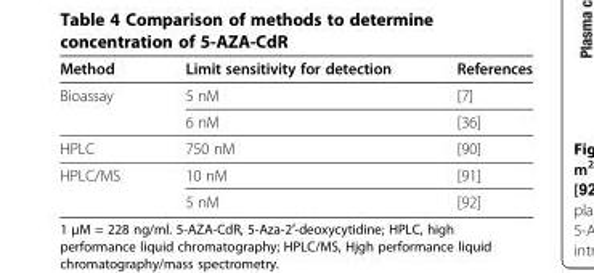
<table><thead><tr><td>Method</td><td>Limit sensitivity for detection</td><td>References</td></tr></thead><tbody><tr><td rowspan="2">Bioassay</td><td>5 nM</td><td>[7]</td></tr><tr><td>6 nM</td><td>[36]</td></tr><tr><td>HPLC</td><td>750 nM</td><td>[90]</td></tr><tr><td rowspan="2">HPLC/MS</td><td>10 nM</td><td>[91]</td></tr><tr><td>5 nM</td><td>[92]</td></tr></tbody></table>